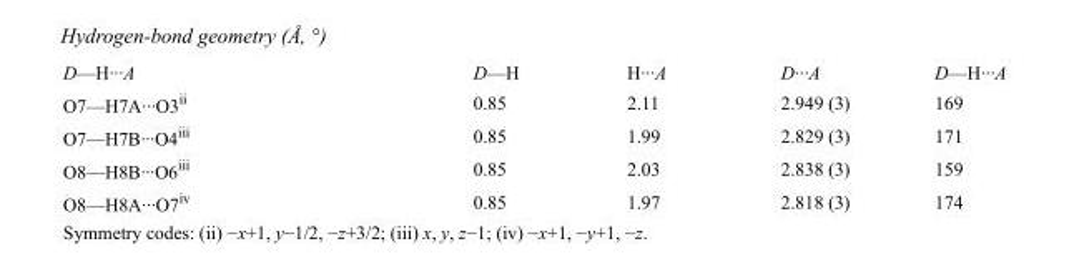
<table><tbody><tr><td>D—H···A</td><td>D—H</td><td>H···A</td><td>D···A</td><td>D—H···A</td></tr><tr><td>O7—H7A···O3<sup>ii</sup></td><td>0.85</td><td>2.11</td><td>2.949 (3)</td><td>169</td></tr><tr><td>O7—H7B···O4<sup>iii</sup></td><td>0.85</td><td>1.99</td><td>2.829 (3)</td><td>171</td></tr><tr><td>O8—H8B···O6<sup>iii</sup></td><td>0.85</td><td>2.03</td><td>2.838 (3)</td><td>159</td></tr><tr><td>O8—H8A···O7<sup>iv</sup></td><td>0.85</td><td>1.97</td><td>2.818 (3)</td><td>174</td></tr></tbody></table>